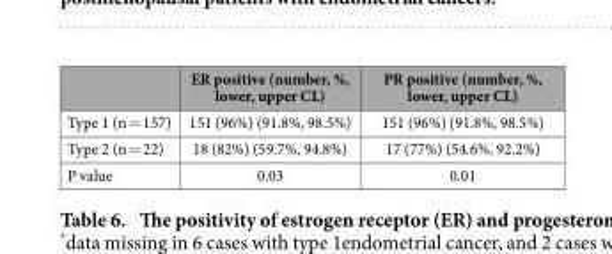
<table><thead><tr><td></td><td>ER positive (number, %, lower, upper CL)</td><td>PR positive (number, %, lower, upper CL)</td></tr></thead><tbody><tr><td>Type 1 (n = 157)</td><td>151 (96%) (91.8%, 98.5%)</td><td>151 (96%) (91.8%, 98.5%)</td></tr><tr><td>Type 2 (n = 22)</td><td>18 (82%) (59.7%, 94.8%)</td><td>17 (77%) (54.6%, 92.2%)</td></tr><tr><td>P value</td><td>0.03</td><td>0.01</td></tr></tbody></table>